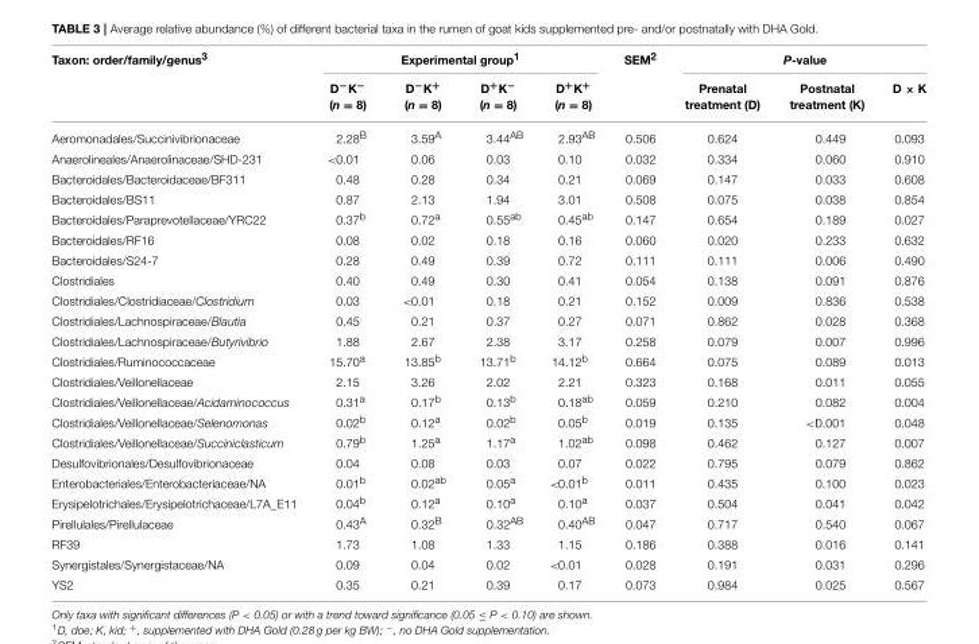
<table><thead><tr><td rowspan="2">Taxon: order/family/genus<sup>3</sup></td><td colspan="4">Experimental group<sup>1</sup></td><td rowspan="2">SEM<sup>2</sup></td><td colspan="3">P-value</td></tr><tr><td>D<sup>−</sup>K<sup>−</sup> (n = 8)</td><td>D<sup>−</sup>K<sup>+</sup> (n = 8)</td><td>D<sup>+</sup>K<sup>−</sup> (n = 8)</td><td>D<sup>+</sup>K<sup>+</sup> (n = 8)</td><td>Prenatal treatment (D)</td><td>Postnatal treatment (K)</td><td>D × K</td></tr></thead><tbody><tr><td>Aeromonadales/Succinivibrionaceae</td><td>2.28<sup>B</sup></td><td>3.59<sup>A</sup></td><td>3.44<sup>AB</sup></td><td>2.93<sup>AB</sup></td><td>0.506</td><td>0.624</td><td>0.449</td><td>0.093</td></tr><tr><td>Anaerolineales/Anaerolinaceae/SHD-231</td><td>&lt;0.01</td><td>0.06</td><td>0.03</td><td>0.10</td><td>0.032</td><td>0.334</td><td>0.060</td><td>0.910</td></tr><tr><td>Bacteroidales/Bacteroidaceae/BF311</td><td>0.48</td><td>0.28</td><td>0.34</td><td>0.21</td><td>0.069</td><td>0.147</td><td>0.033</td><td>0.608</td></tr><tr><td>Bacteroidales/BS11</td><td>0.87</td><td>2.13</td><td>1.94</td><td>3.01</td><td>0.508</td><td>0.075</td><td>0.038</td><td>0.854</td></tr><tr><td>Bacteroidales/Paraprevotellaceae/YRC22</td><td>0.37<sup>b</sup></td><td>0.72<sup>a</sup></td><td>0.55<sup>ab</sup></td><td>0.45<sup>ab</sup></td><td>0.147</td><td>0.654</td><td>0.189</td><td>0.027</td></tr><tr><td>Bacteroidales/RF16</td><td>0.08</td><td>0.02</td><td>0.18</td><td>0.16</td><td>0.060</td><td>0.020</td><td>0.233</td><td>0.632</td></tr><tr><td>Bacteroidales/S24-7</td><td>0.28</td><td>0.49</td><td>0.39</td><td>0.72</td><td>0.111</td><td>0.111</td><td>0.006</td><td>0.490</td></tr><tr><td>Clostridiales</td><td>0.40</td><td>0.49</td><td>0.30</td><td>0.41</td><td>0.054</td><td>0.138</td><td>0.091</td><td>0.876</td></tr><tr><td>Clostridiales/Clostridiaceae/Clostridium</td><td>0.03</td><td>&lt;0.01</td><td>0.18</td><td>0.21</td><td>0.152</td><td>0.009</td><td>0.836</td><td>0.538</td></tr><tr><td>Clostridiales/Lachnospiraceae/Blautia</td><td>0.45</td><td>0.21</td><td>0.37</td><td>0.27</td><td>0.071</td><td>0.862</td><td>0.028</td><td>0.368</td></tr><tr><td>Clostridiales/Lachnospiraceae/Butyrivibrio</td><td>1.88</td><td>2.67</td><td>2.38</td><td>3.17</td><td>0.258</td><td>0.079</td><td>0.007</td><td>0.996</td></tr><tr><td>Clostridiales/Ruminococcaceae</td><td>15.70<sup>a</sup></td><td>13.85<sup>b</sup></td><td>13.71<sup>b</sup></td><td>14.12<sup>b</sup></td><td>0.664</td><td>0.075</td><td>0.089</td><td>0.013</td></tr><tr><td>Clostridiales/Veillonellaceae</td><td>2.15</td><td>3.26</td><td>2.02</td><td>2.21</td><td>0.323</td><td>0.168</td><td>0.011</td><td>0.055</td></tr><tr><td>Clostridiales/Veillonellaceae/Acidaminococcus</td><td>0.31<sup>a</sup></td><td>0.17<sup>b</sup></td><td>0.13<sup>b</sup></td><td>0.18<sup>ab</sup></td><td>0.059</td><td>0.210</td><td>0.082</td><td>0.004</td></tr><tr><td>Clostridiales/Veillonellaceae/Selenomonas</td><td>0.02<sup>b</sup></td><td>0.12<sup>a</sup></td><td>0.02<sup>b</sup></td><td>0.05<sup>b</sup></td><td>0.019</td><td>0.135</td><td>&lt;!0.001</td><td>0.048</td></tr><tr><td>Clostridiales/Veillonellaceae/Succiniclasticum</td><td>0.79<sup>b</sup></td><td>1.25<sup>a</sup></td><td>1.17<sup>a</sup></td><td>1.02<sup>ab</sup></td><td>0.098</td><td>0.462</td><td>0.127</td><td>0.007</td></tr><tr><td>Desulfovibrionales/Desulfovibrionaceae</td><td>0.04</td><td>0.08</td><td>0.03</td><td>0.07</td><td>0.022</td><td>0.795</td><td>0.079</td><td>0.862</td></tr><tr><td>Enterobacteriales/Enterobacteriaceae/NA</td><td>0.01<sup>b</sup></td><td>0.02<sup>ab</sup></td><td>0.05<sup>a</sup></td><td>&lt;0.01<sup>b</sup></td><td>0.011</td><td>0.435</td><td>0.100</td><td>0.023</td></tr><tr><td>Erysipelotrichales/Erysipelotrichaceae/L7A_E11</td><td>0.04<sup>b</sup></td><td>0.12<sup>a</sup></td><td>0.10<sup>a</sup></td><td>0.10<sup>a</sup></td><td>0.037</td><td>0.504</td><td>0.041</td><td>0.042</td></tr><tr><td>Pirellulales/Pirellulaceae</td><td>0.43<sup>A</sup></td><td>0.32<sup>B</sup></td><td>0.32<sup>AB</sup></td><td>0.40<sup>AB</sup></td><td>0.047</td><td>0.717</td><td>0.540</td><td>0.067</td></tr><tr><td>RF39</td><td>1.73</td><td>1.08</td><td>1.33</td><td>1.15</td><td>0.186</td><td>0.388</td><td>0.016</td><td>0.141</td></tr><tr><td>Synergistales/Synergistaceae/NA</td><td>0.09</td><td>0.04</td><td>0.02</td><td>&lt;0.01</td><td>0.028</td><td>0.191</td><td>0.031</td><td>0.296</td></tr><tr><td>YS2</td><td>0.35</td><td>0.21</td><td>0.39</td><td>0.17</td><td>0.073</td><td>0.984</td><td>0.025</td><td>0.567</td></tr></tbody></table>